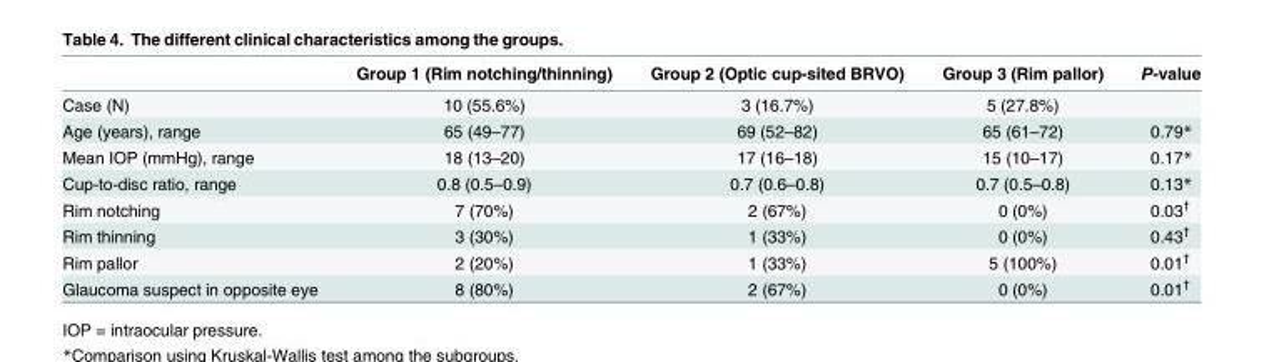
<table><thead><tr><td></td><td>Group 1 (Rim notching/thinning)</td><td>Group 2 (Optic cup-sited BRVO)</td><td>Group 3 (Rim pallor)</td><td>P-value</td></tr></thead><tbody><tr><td>Case (N)</td><td>10 (55.6%)</td><td>3 (16.7%)</td><td>5 (27.8%)</td><td></td></tr><tr><td>Age (years), range</td><td>65 (49–77)</td><td>69 (52–82)</td><td>65 (61–72)</td><td>0.79*</td></tr><tr><td>Mean IOP (mmHg), range</td><td>18 (13–20)</td><td>17 (16–18)</td><td>15 (10–17)</td><td>0.17*</td></tr><tr><td>Cup-to-disc ratio, range</td><td>0.8 (0.5–0.9)</td><td>0.7 (0.6–0.8)</td><td>0.7 (0.5–0.8)</td><td>0.13*</td></tr><tr><td>Rim notching</td><td>7 (70%)</td><td>2 (67%)</td><td>0 (0%)</td><td>0.03<sup>†</sup></td></tr><tr><td>Rim thinning</td><td>3 (30%)</td><td>1 (33%)</td><td>0 (0%)</td><td>0.43<sup>†</sup></td></tr><tr><td>Rim pallor</td><td>2 (20%)</td><td>1 (33%)</td><td>5 (100%)</td><td>0.01<sup>†</sup></td></tr><tr><td>Glaucoma suspect in opposite eye</td><td>8 (80%)</td><td>2 (67%)</td><td>0 (0%)</td><td>0.01<sup>†</sup></td></tr></tbody></table>